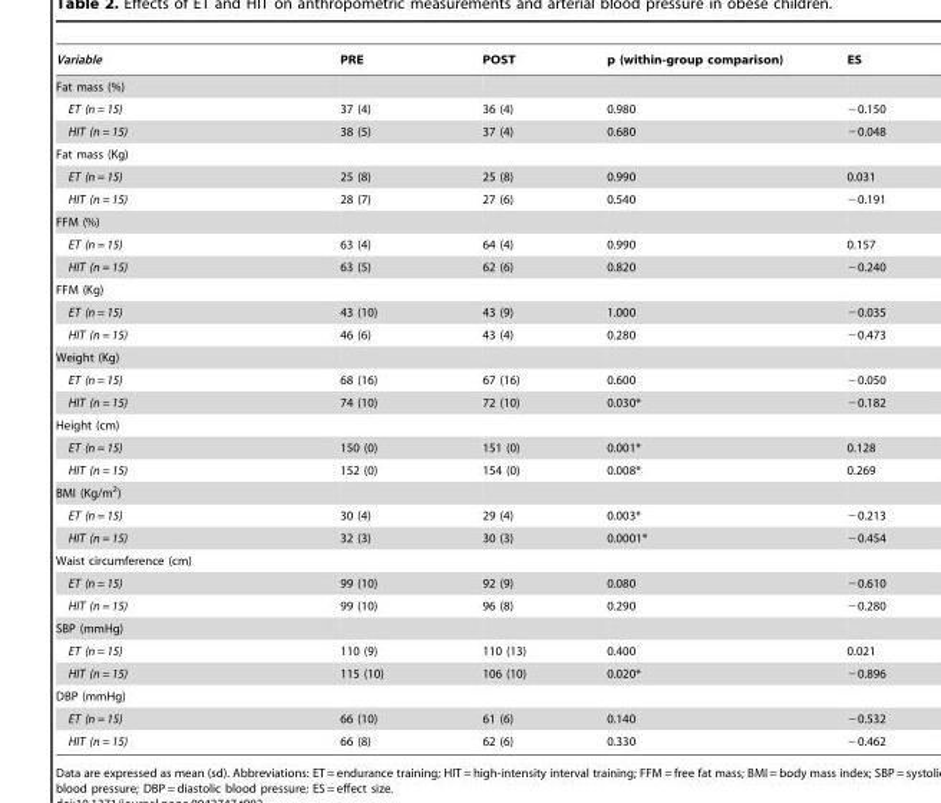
<table><thead><tr><td>Variable</td><td>PRE</td><td>POST</td><td>p (within-group comparison)</td><td>ES</td></tr></thead><tbody><tr><td colspan="5">Fat mass (%)</td></tr><tr><td>ET (n = 15)</td><td>37 (4)</td><td>36 (4)</td><td>0.980</td><td>−0.150</td></tr><tr><td>HIT (n = 15)</td><td>38 (5)</td><td>37 (4)</td><td>0.680</td><td>−0.048</td></tr><tr><td colspan="5">Fat mass (Kg)</td></tr><tr><td>ET (n = 15)</td><td>25 (8)</td><td>25 (8)</td><td>0.990</td><td>0.031</td></tr><tr><td>HIT (n = 15)</td><td>28 (7)</td><td>27 (6)</td><td>0.540</td><td>−0.191</td></tr><tr><td colspan="5">FFM (%)</td></tr><tr><td>ET (n = 15)</td><td>63 (4)</td><td>64 (4)</td><td>0.990</td><td>0.157</td></tr><tr><td>HIT (n = 15)</td><td>63 (5)</td><td>62 (6)</td><td>0.820</td><td>−0.240</td></tr><tr><td colspan="5">FFM (Kg)</td></tr><tr><td>ET (n = 15)</td><td>43 (10)</td><td>43 (9)</td><td>1.000</td><td>−0.035</td></tr><tr><td>HIT (n = 15)</td><td>46 (6)</td><td>43 (4)</td><td>0.280</td><td>−0.473</td></tr><tr><td colspan="5">Weight (Kg)</td></tr><tr><td>ET (n = 15)</td><td>68 (16)</td><td>67 (16)</td><td>0.600</td><td>−0.050</td></tr><tr><td>HIT (n = 15)</td><td>74 (10)</td><td>72 (10)</td><td>0.030*</td><td>−0.182</td></tr><tr><td colspan="5">Height (cm)</td></tr><tr><td>ET (n = 15)</td><td>150 (0)</td><td>151 (0)</td><td>0.001*</td><td>0.128</td></tr><tr><td>HIT (n = 15)</td><td>152 (0)</td><td>154 (0)</td><td>0.008*</td><td>0.269</td></tr><tr><td colspan="5">BMI (Kg/m<sup>2</sup>)</td></tr><tr><td>ET (n = 15)</td><td>30 (4)</td><td>29 (4)</td><td>0.003*</td><td>−0.213</td></tr><tr><td>HIT (n = 15)</td><td>32 (3)</td><td>30 (3)</td><td>0.0001*</td><td>−0.454</td></tr><tr><td colspan="5">Waist circumference (cm)</td></tr><tr><td>ET (n = 15)</td><td>99 (10)</td><td>92 (9)</td><td>0.080</td><td>−0.610</td></tr><tr><td>HIT (n = 15)</td><td>99 (10)</td><td>96 (8)</td><td>0.290</td><td>−0.280</td></tr><tr><td colspan="5">SBP (mmHg)</td></tr><tr><td>ET (n = 15)</td><td>110 (9)</td><td>110 (13)</td><td>0.400</td><td>0.021</td></tr><tr><td>HIT (n = 15)</td><td>115 (10)</td><td>106 (10)</td><td>0.020*</td><td>−0.896</td></tr><tr><td colspan="5">DBP (mmHg)</td></tr><tr><td>ET (n = 15)</td><td>66 (10)</td><td>61 (6)</td><td>0.140</td><td>−0.532</td></tr><tr><td>HIT (n = 15)</td><td>66 (8)</td><td>62 (6)</td><td>0.330</td><td>−0.462</td></tr></tbody></table>